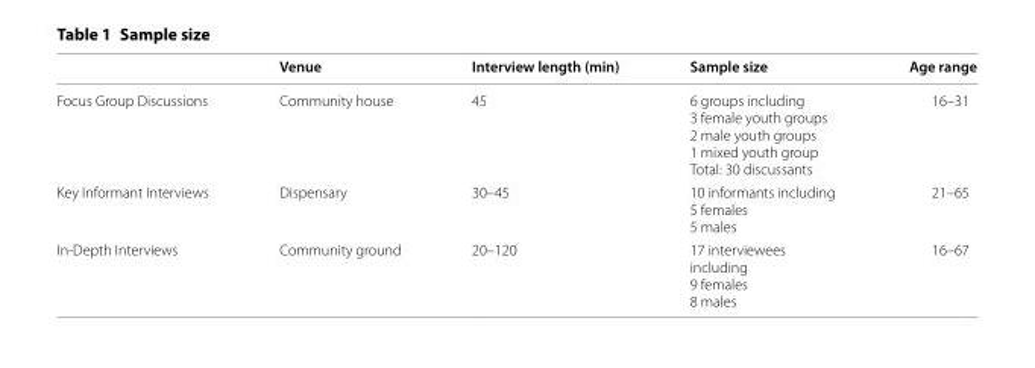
<table><thead><tr><td></td><td>Venue</td><td>Interview length (min)</td><td>Sample size</td><td>Age range</td></tr></thead><tbody><tr><td>Focus Group Discussions</td><td>Community house</td><td>45</td><td>6 groups including 3 female youth groups 2 male youth groups 1 mixed youth group Total: 30 discussants</td><td>16–31</td></tr><tr><td>Key Informant Interviews</td><td>Dispensary</td><td>30–45</td><td>10 informants including 5 females 5 males</td><td>21–65</td></tr><tr><td>In-Depth Interviews</td><td>Community ground</td><td>20–120</td><td>17 interviewees including 9 females 8 males</td><td>16–67</td></tr></tbody></table>